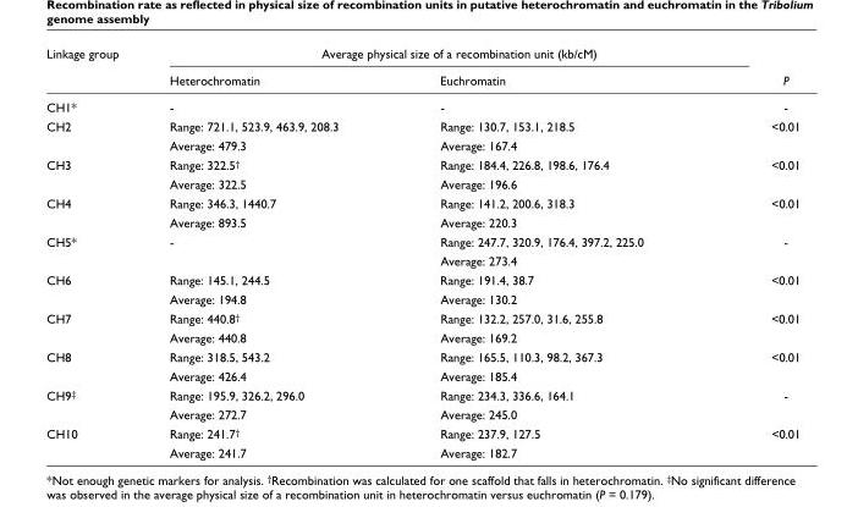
<table><thead><tr><td rowspan="2">Linkage group</td><td colspan="2">Average physical size of a recombination unit (kb/cM)</td><td rowspan="2">P</td></tr><tr><td>Heterochromatin</td><td>Euchromatin</td></tr></thead><tbody><tr><td>CH1*</td><td>-</td><td>-</td><td>-</td></tr><tr><td rowspan="2">CH2</td><td>Range: 721.1, 523.9, 463.9, 208.3</td><td>Range: 130.7, 153.1, 218.5</td><td>&lt;0.01</td></tr><tr><td>Average: 479.3</td><td>Average: 167.4</td><td></td></tr><tr><td rowspan="2">CH3</td><td>Range: 322.5<sup>†</sup></td><td>Range: 184.4, 226.8, 198.6, 176.4</td><td>&lt;0.01</td></tr><tr><td>Average: 322.5</td><td>Average: 196.6</td><td></td></tr><tr><td rowspan="2">CH4</td><td>Range: 346.3, 1440.7</td><td>Range: 141.2, 200.6, 318.3</td><td>&lt;0.01</td></tr><tr><td>Average: 893.5</td><td>Average: 220.3</td><td></td></tr><tr><td rowspan="2">CH5*</td><td>-</td><td>Range: 247.7, 320.9, 176.4, 397.2, 225.0</td><td>-</td></tr><tr><td></td><td>Average: 273.4</td><td></td></tr><tr><td rowspan="2">CH6</td><td>Range: 145.1, 244.5</td><td>Range: 191.4, 38.7</td><td>&lt;0.01</td></tr><tr><td>Average: 194.8</td><td>Average: 130.2</td><td></td></tr><tr><td rowspan="2">CH7</td><td>Range: 440.8<sup>†</sup></td><td>Range: 132.2, 257.0, 31.6, 255.8</td><td>&lt;0.01</td></tr><tr><td>Average: 440.8</td><td>Average: 169.2</td><td></td></tr><tr><td rowspan="2">CH8</td><td>Range: 318.5, 543.2</td><td>Range: 165.5, 110.3, 98.2, 367.3</td><td>&lt;0.01</td></tr><tr><td>Average: 426.4</td><td>Average: 185.4</td><td></td></tr><tr><td rowspan="2">CH9<sup>‡</sup></td><td>Range: 195.9, 326.2, 296.0</td><td>Range: 234.3, 336.6, 164.1</td><td>-</td></tr><tr><td>Average: 272.7</td><td>Average: 245.0</td><td></td></tr><tr><td rowspan="2">CH10</td><td>Range: 241.7<sup>†</sup></td><td>Range: 237.9, 127.5</td><td>&lt;0.01</td></tr><tr><td>Average: 241.7</td><td>Average: 182.7</td><td></td></tr></tbody></table>